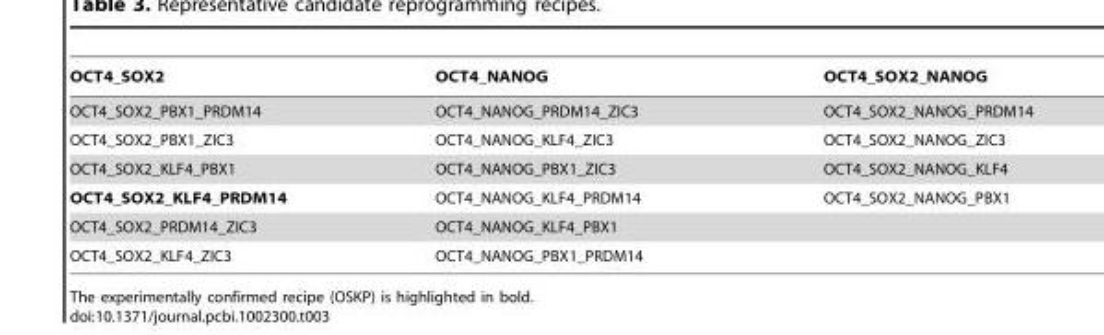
<table><thead><tr><td>OCT4_SOX2</td><td>OCT4_NANOG</td><td>OCT4_SOX2_NANOG</td></tr></thead><tbody><tr><td>OCT4_SOX2_PBX1_PRDM14</td><td>OCT4_NANOG_PRDM14_ZIC3</td><td>OCT4_SOX2_NANOG_PRDM14</td></tr><tr><td>OCT4_SOX2_PBX1_ZIC3</td><td>OCT4_NANOG_KLF4_ZIC3</td><td>OCT4_SOX2_NANOG_ZIC3</td></tr><tr><td>OCT4_SOX2_KLF4_PBX1</td><td>OCT4_NANOG_PBX1_ZIC3</td><td>OCT4_SOX2_NANOG_KLF4</td></tr><tr><td>OCT4_SOX2_KLF4_PRDM14</td><td>OCT4_NANOG_KLF4_PRDM14</td><td>OCT4_SOX2_NANOG_PBX1</td></tr><tr><td>OCT4_SOX2_PRDM14_ZIC3</td><td>OCT4_NANOG_KLF4_PBX1</td><td></td></tr><tr><td>OCT4_SOX2_KLF4_ZIC3</td><td>OCT4_NANOG_PBX1_PRDM14</td><td></td></tr></tbody></table>